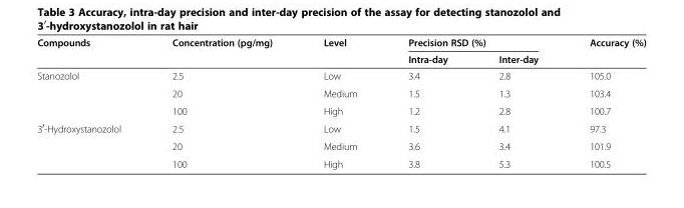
<table><thead><tr><td rowspan="2">Compounds</td><td rowspan="2">Concentration (pg/mg)</td><td rowspan="2">Level</td><td colspan="2">Precision RSD (%)</td><td rowspan="2">Accuracy (%)</td></tr><tr><td>Intra-day</td><td>Inter-day</td></tr></thead><tbody><tr><td rowspan="3">Stanozolol</td><td>2.5</td><td>Low</td><td>3.4</td><td>2.8</td><td>105.0</td></tr><tr><td>20</td><td>Medium</td><td>1.5</td><td>1.3</td><td>103.4</td></tr><tr><td>100</td><td>High</td><td>1.2</td><td>2.8</td><td>100.7</td></tr><tr><td rowspan="3">3<sup>′</sup>-Hydroxystanozolol</td><td>2.5</td><td>Low</td><td>1.5</td><td>4.1</td><td>97.3</td></tr><tr><td>20</td><td>Medium</td><td>3.6</td><td>3.4</td><td>101.9</td></tr><tr><td>100</td><td>High</td><td>3.8</td><td>5.3</td><td>100.5</td></tr></tbody></table>